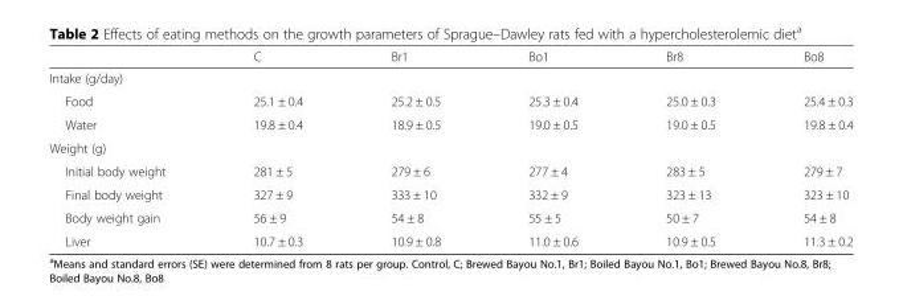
<table><thead><tr><td></td><td>C</td><td>Br1</td><td>Bo1</td><td>Br8</td><td>Bo8</td></tr></thead><tbody><tr><td colspan="6">Intake (g/day)</td></tr><tr><td>Food</td><td>25.1 ± 0.4</td><td>25.2 ± 0.5</td><td>25.3 ± 0.4</td><td>25.0 ± 0.3</td><td>25.4 ± 0.3</td></tr><tr><td>Water</td><td>19.8 ± 0.4</td><td>18.9 ± 0.5</td><td>19.0 ± 0.5</td><td>19.0 ± 0.5</td><td>19.8 ± 0.4</td></tr><tr><td colspan="6">Weight (g)</td></tr><tr><td>Initial body weight</td><td>281 ± 5</td><td>279 ± 6</td><td>277 ± 4</td><td>283 ± 5</td><td>279 ± 7</td></tr><tr><td>Final body weight</td><td>327 ± 9</td><td>333 ± 10</td><td>332 ± 9</td><td>323 ± 13</td><td>323 ± 10</td></tr><tr><td>Body weight gain</td><td>56 ± 9</td><td>54 ± 8</td><td>55 ± 5</td><td>50 ± 7</td><td>54 ± 8</td></tr><tr><td>Liver</td><td>10.7 ± 0.3</td><td>10.9 ± 0.8</td><td>11.0 ± 0.6</td><td>10.9 ± 0.5</td><td>11.3 ± 0.2</td></tr></tbody></table>